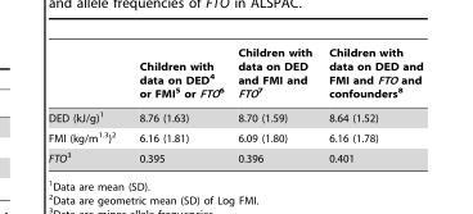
<table><thead><tr><td></td><td>Children with data on DED<sup>4</sup> or FMI<sup>5</sup> or FTO6</td><td>Children with data on DED and FMI and FTO7</td><td>Children with data on DED and FMI and FTO and confounders<sup>8</sup></td></tr></thead><tbody><tr><td>DED (kJ/g)<sup>1</sup></td><td>8.76 (1.63)</td><td>8.70 (1.59)</td><td>8.64 (1.52)</td></tr><tr><td>FMI (kg/m<sup>1.3</sup>)<sup>2</sup></td><td>6.16 (1.81)</td><td>6.09 (1.80)</td><td>6.16 (1.78)</td></tr><tr><td>FTO3</td><td>0.395</td><td>0.396</td><td>0.401</td></tr></tbody></table>